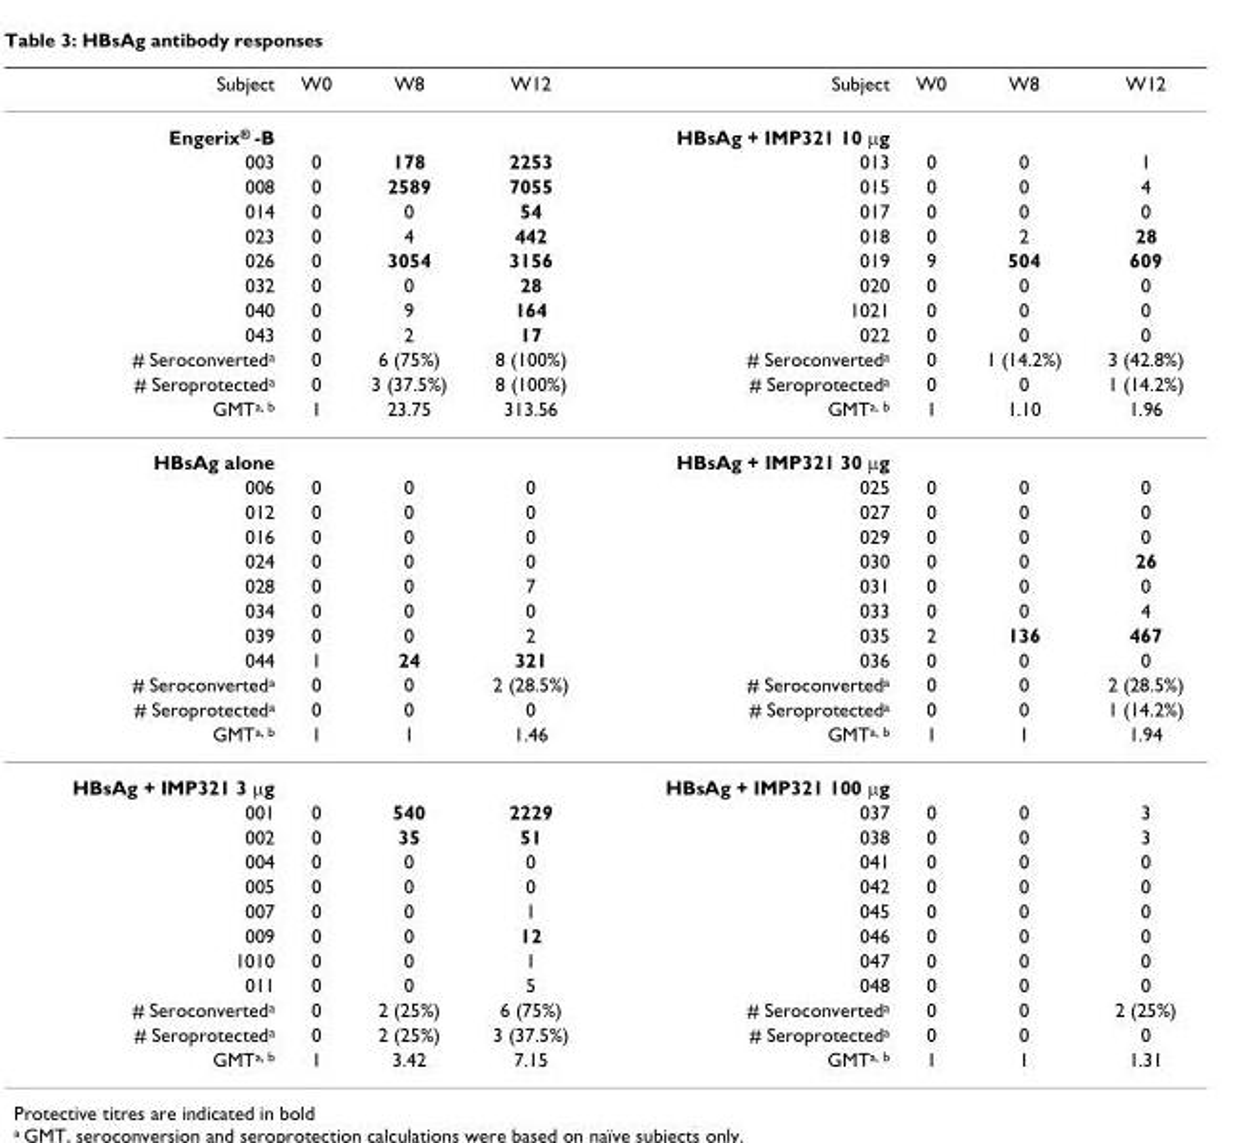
<table><thead><tr><td>Subject</td><td>W0</td><td>W8</td><td>W12</td><td>Subject</td><td>W0</td><td>W8</td><td>W12</td></tr></thead><tbody><tr><td>Engerix<sup>®</sup> -B</td><td></td><td></td><td></td><td>HBsAg + IMP321 10 μg</td><td></td><td></td><td></td></tr><tr><td>003</td><td>0</td><td>178</td><td>2253</td><td>013</td><td>0</td><td>0</td><td>1</td></tr><tr><td>008</td><td>0</td><td>2589</td><td>7055</td><td>015</td><td>0</td><td>0</td><td>4</td></tr><tr><td>014</td><td>0</td><td>0</td><td>54</td><td>017</td><td>0</td><td>0</td><td>0</td></tr><tr><td>023</td><td>0</td><td>4</td><td>442</td><td>018</td><td>0</td><td>2</td><td>28</td></tr><tr><td>026</td><td>0</td><td>3054</td><td>3156</td><td>019</td><td>9</td><td>504</td><td>609</td></tr><tr><td>032</td><td>0</td><td>0</td><td>28</td><td>020</td><td>0</td><td>0</td><td>0</td></tr><tr><td>040</td><td>0</td><td>9</td><td>164</td><td>1021</td><td>0</td><td>0</td><td>0</td></tr><tr><td>043</td><td>0</td><td>2</td><td>17</td><td>022</td><td>0</td><td>0</td><td>0</td></tr><tr><td># Seroconverted<sup>a</sup></td><td>0</td><td>6 (75%)</td><td>8 (100%)</td><td># Seroconverted<sup>a</sup></td><td>0</td><td>1 (14.2%)</td><td>3 (42.8%)</td></tr><tr><td># Seroprotected<sup>a</sup></td><td>0</td><td>3 (37.5%)</td><td>8 (100%)</td><td># Seroprotected<sup>a</sup></td><td>0</td><td>0</td><td>1 (14.2%)</td></tr><tr><td>GMT<sup>a, b</sup></td><td>1</td><td>23.75</td><td>313.56</td><td>GMT<sup>a, b</sup></td><td>1</td><td>1.10</td><td>1.96</td></tr><tr><td>HBsAg alone</td><td></td><td></td><td></td><td>HBsAg + IMP321 30 μg</td><td></td><td></td><td></td></tr><tr><td>006</td><td>0</td><td>0</td><td>0</td><td>025</td><td>0</td><td>0</td><td>0</td></tr><tr><td>012</td><td>0</td><td>0</td><td>0</td><td>027</td><td>0</td><td>0</td><td>0</td></tr><tr><td>016</td><td>0</td><td>0</td><td>0</td><td>029</td><td>0</td><td>0</td><td>0</td></tr><tr><td>024</td><td>0</td><td>0</td><td>0</td><td>030</td><td>0</td><td>0</td><td>26</td></tr><tr><td>028</td><td>0</td><td>0</td><td>7</td><td>031</td><td>0</td><td>0</td><td>0</td></tr><tr><td>034</td><td>0</td><td>0</td><td>0</td><td>033</td><td>0</td><td>0</td><td>4</td></tr><tr><td>039</td><td>0</td><td>0</td><td>2</td><td>035</td><td>2</td><td>136</td><td>467</td></tr><tr><td>044</td><td>1</td><td>24</td><td>321</td><td>036</td><td>0</td><td>0</td><td>0</td></tr><tr><td># Seroconverted<sup>a</sup></td><td>0</td><td>0</td><td>2 (28.5%)</td><td># Seroconverted<sup>a</sup></td><td>0</td><td>0</td><td>2 (28.5%)</td></tr><tr><td># Seroprotected<sup>a</sup></td><td>0</td><td>0</td><td>0</td><td># Seroprotected<sup>a</sup></td><td>0</td><td>0</td><td>1 (14.2%)</td></tr><tr><td>GMT<sup>a, b</sup></td><td>1</td><td>1</td><td>1.46</td><td>GMT<sup>a, b</sup></td><td>1</td><td>1</td><td>1.94</td></tr><tr><td>HBsAg + IMP321 3 μg</td><td></td><td></td><td></td><td>HBsAg + IMP321 100 μg</td><td></td><td></td><td></td></tr><tr><td>001</td><td>0</td><td>540</td><td>2229</td><td>037</td><td>0</td><td>0</td><td>3</td></tr><tr><td>002</td><td>0</td><td>35</td><td>51</td><td>038</td><td>0</td><td>0</td><td>3</td></tr><tr><td>004</td><td>0</td><td>0</td><td>0</td><td>041</td><td>0</td><td>0</td><td>0</td></tr><tr><td>005</td><td>0</td><td>0</td><td>0</td><td>042</td><td>0</td><td>0</td><td>0</td></tr><tr><td>007</td><td>0</td><td>0</td><td>1</td><td>045</td><td>0</td><td>0</td><td>0</td></tr><tr><td>009</td><td>0</td><td>0</td><td>12</td><td>046</td><td>0</td><td>0</td><td>0</td></tr><tr><td>1010</td><td>0</td><td>0</td><td>1</td><td>047</td><td>0</td><td>0</td><td>0</td></tr><tr><td>011</td><td>0</td><td>0</td><td>5</td><td>048</td><td>0</td><td>0</td><td>0</td></tr><tr><td># Seroconverted<sup>a</sup></td><td>0</td><td>2 (25%)</td><td>6 (75%)</td><td># Seroconverted<sup>a</sup></td><td>0</td><td>0</td><td>2 (25%)</td></tr><tr><td># Seroprotected<sup>a</sup></td><td>0</td><td>2 (25%)</td><td>3 (37.5%)</td><td># Seroprotected<sup>a</sup></td><td>0</td><td>0</td><td>0</td></tr><tr><td>GMT<sup>a, b</sup></td><td>1</td><td>3.42</td><td>7.15</td><td>GMT<sup>a, b</sup></td><td>1</td><td>1</td><td>1.31</td></tr></tbody></table>